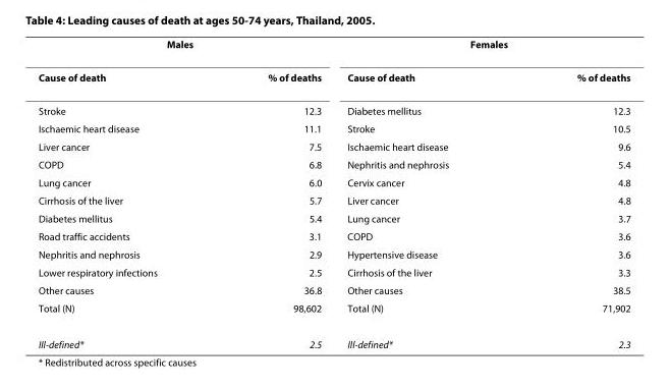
<table><tbody><tr><td colspan="2">Males</td><td colspan="2">Females</td></tr><tr><td>Cause of death</td><td>% of deaths</td><td>Cause of death</td><td>% of deaths</td></tr><tr><td>Stroke</td><td>12.3</td><td>Diabetes mellitus</td><td>12.3</td></tr><tr><td>Ischaemic heart disease</td><td>11.1</td><td>Stroke</td><td>10.5</td></tr><tr><td>Liver cancer</td><td>7.5</td><td>Ischaemic heart disease</td><td>9.6</td></tr><tr><td>COPD</td><td>6.8</td><td>Nephritis and nephrosis</td><td>5.4</td></tr><tr><td>Lung cancer</td><td>6.0</td><td>Cervix cancer</td><td>4.8</td></tr><tr><td>Cirrhosis of the liver</td><td>5.7</td><td>Liver cancer</td><td>4.8</td></tr><tr><td>Diabetes mellitus</td><td>5.4</td><td>Lung cancer</td><td>3.7</td></tr><tr><td>Road traffic accidents</td><td>3.1</td><td>COPD</td><td>3.6</td></tr><tr><td>Nephritis and nephrosis</td><td>2.9</td><td>Hypertensive disease</td><td>3.6</td></tr><tr><td>Lower respiratory infections</td><td>2.5</td><td>Cirrhosis of the liver</td><td>3.3</td></tr><tr><td>Other causes</td><td>36.8</td><td>Other causes</td><td>38.5</td></tr><tr><td>Total (N)</td><td>98,602</td><td>Total (N)</td><td>71,902</td></tr><tr><td>Ill-defined*</td><td>2.5</td><td>Ill-defined*</td><td>2.3</td></tr></tbody></table>